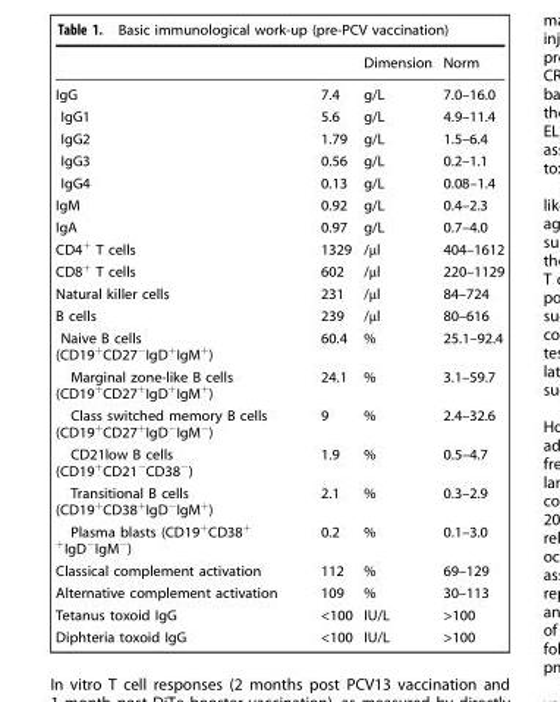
<table><thead><tr><td></td><td></td><td>Dimension</td><td>Norm</td></tr></thead><tbody><tr><td>IgG</td><td>7.4</td><td>g/L</td><td>7.0–16.0</td></tr><tr><td>IgG1</td><td>5.6</td><td>g/L</td><td>4.9–11.4</td></tr><tr><td>IgG2</td><td>1.79</td><td>g/L</td><td>1.5–6.4</td></tr><tr><td>IgG3</td><td>0.56</td><td>g/L</td><td>0.2–1.1</td></tr><tr><td>IgG4</td><td>0.13</td><td>g/L</td><td>0.08–1.4</td></tr><tr><td>IgM</td><td>0.92</td><td>g/L</td><td>0.4–2.3</td></tr><tr><td>IgA</td><td>0.97</td><td>g/L</td><td>0.7–4.0</td></tr><tr><td>CD4<sup>+</sup> T cells</td><td>1329</td><td>/μl</td><td>404–1612</td></tr><tr><td>CD8<sup>+</sup> T cells</td><td>602</td><td>/μl</td><td>220–1129</td></tr><tr><td>Natural killer cells</td><td>231</td><td>/μl</td><td>84–724</td></tr><tr><td>B cells</td><td>239</td><td>/μl</td><td>80–616</td></tr><tr><td>Naive B cells (CD19<sup>+</sup>CD27<sup>−</sup>IgD<sup>+</sup>IgM<sup>+</sup>)</td><td>60.4</td><td>%</td><td>25.1–92.4</td></tr><tr><td>Marginal zone-like B cells (CD19<sup>+</sup>CD27<sup>+</sup>IgD<sup>+</sup>IgM<sup>+</sup>)</td><td>24.1</td><td>%</td><td>3.1–59.7</td></tr><tr><td>Class switched memory B cells (CD19<sup>+</sup>CD27<sup>+</sup>IgD<sup>−</sup>IgM<sup>−</sup>)</td><td>9</td><td>%</td><td>2.4–32.6</td></tr><tr><td>CD21low B cells (CD19<sup>+</sup>CD21<sup>−</sup>CD38<sup>−</sup>)</td><td>1.9</td><td>%</td><td>0.5–4.7</td></tr><tr><td>Transitional B cells (CD19<sup>+</sup>CD38<sup>+</sup>IgD<sup>−</sup>IgM<sup>+</sup>)</td><td>2.1</td><td>%</td><td>0.3–2.9</td></tr><tr><td>Plasma blasts (CD19<sup>+</sup>CD38<sup>+ +</sup>IgD<sup>−</sup>IgM<sup>−</sup>)</td><td>0.2</td><td>%</td><td>0.1–3.0</td></tr><tr><td>Classical complement activation</td><td>112</td><td>%</td><td>69–129</td></tr><tr><td>Alternative complement activation</td><td>109</td><td>%</td><td>30–113</td></tr><tr><td>Tetanus toxoid IgG</td><td>&lt;100</td><td>IU/L</td><td>&gt;100</td></tr><tr><td>Diphteria toxoid IgG</td><td>&lt;100</td><td>IU/L</td><td>&gt;100</td></tr></tbody></table>